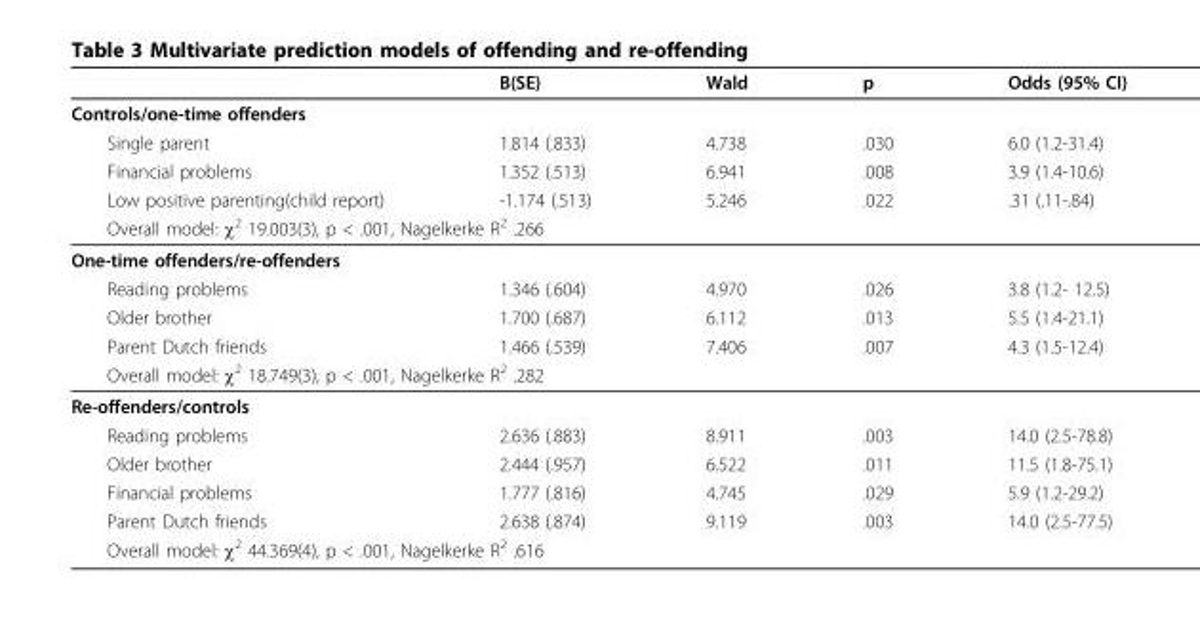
<table><thead><tr><td></td><td>B(SE)</td><td>Wald</td><td>p</td><td>Odds (95% CI)</td></tr></thead><tbody><tr><td colspan="5">Controls/one-time offenders</td></tr><tr><td>Single parent</td><td>1.814 (.833)</td><td>4.738</td><td>.030</td><td>6.0 (1.2-31.4)</td></tr><tr><td>Financial problems</td><td>1.352 (.513)</td><td>6.941</td><td>.008</td><td>3.9 (1.4-10.6)</td></tr><tr><td>Low positive parenting(child report)</td><td>-1.174 (.513)</td><td>5.246</td><td>.022</td><td>.31 (.11-.84)</td></tr><tr><td colspan="5">Overall model: χ<sup>2</sup> 19.003(3), p &lt; .001, Nagelkerke R<sup>2</sup> .266</td></tr><tr><td colspan="5">One-time offenders/re-offenders</td></tr><tr><td>Reading problems</td><td>1.346 (.604)</td><td>4.970</td><td>.026</td><td>3.8 (1.2- 12.5)</td></tr><tr><td>Older brother</td><td>1.700 (.687)</td><td>6.112</td><td>.013</td><td>5.5 (1.4-21.1)</td></tr><tr><td>Parent Dutch friends</td><td>1.466 (.539)</td><td>7.406</td><td>.007</td><td>4.3 (1.5-12.4)</td></tr><tr><td colspan="5">Overall model: χ<sup>2</sup> 18.749(3), p &lt; .001, Nagelkerke R<sup>2</sup> .282</td></tr><tr><td colspan="5">Re-offenders/controls</td></tr><tr><td>Reading problems</td><td>2.636 (.883)</td><td>8.911</td><td>.003</td><td>14.0 (2.5-78.8)</td></tr><tr><td>Older brother</td><td>2.444 (.957)</td><td>6.522</td><td>.011</td><td>11.5 (1.8-75.1)</td></tr><tr><td>Financial problems</td><td>1.777 (.816)</td><td>4.745</td><td>.029</td><td>5.9 (1.2-29.2)</td></tr><tr><td>Parent Dutch friends</td><td>2.638 (.874)</td><td>9.119</td><td>.003</td><td>14.0 (2.5-77.5)</td></tr><tr><td colspan="5">Overall model: χ<sup>2</sup> 44.369(4), p &lt; .001, Nagelkerke R<sup>2</sup> .616</td></tr></tbody></table>